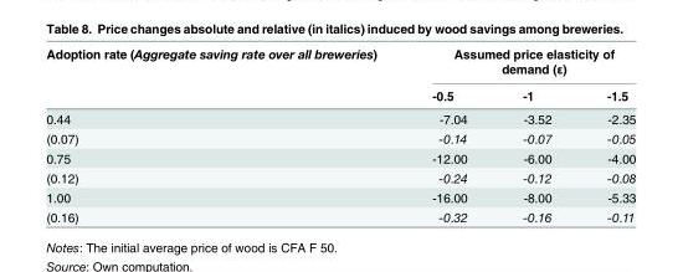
<table><thead><tr><td rowspan="2">Adoption rate (Aggregate saving rate over all breweries)</td><td colspan="3">Assumed price elasticity of demand (ε)</td></tr><tr><td>-0.5</td><td>-1</td><td>-1.5</td></tr></thead><tbody><tr><td>0.44</td><td>-7.04</td><td>-3.52</td><td>-2.35</td></tr><tr><td>(0.07)</td><td>-0.14</td><td>-0.07</td><td>-0.05</td></tr><tr><td>0.75</td><td>-12.00</td><td>-6.00</td><td>-4.00</td></tr><tr><td>(0.12)</td><td>-0.24</td><td>-0.12</td><td>-0.08</td></tr><tr><td>1.00</td><td>-16.00</td><td>-8.00</td><td>-5.33</td></tr><tr><td>(0.16)</td><td>-0.32</td><td>-0.16</td><td>-0.11</td></tr></tbody></table>